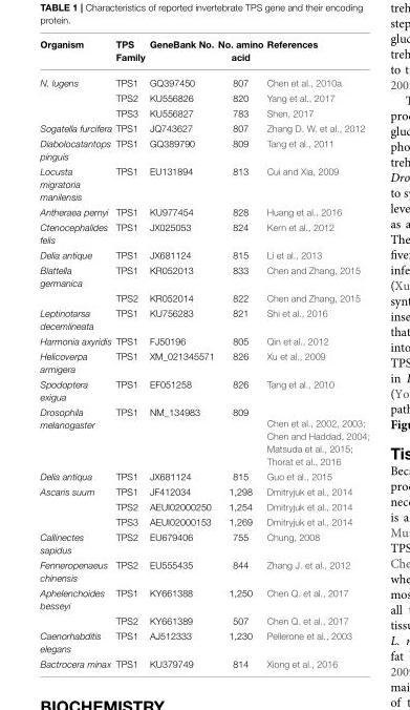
<table><thead><tr><td>Organism</td><td>TPS Family</td><td>GeneBank No.</td><td>No. amino acid</td><td>References</td></tr></thead><tbody><tr><td rowspan="3">N. lugens</td><td>TPS1</td><td>GQ397450</td><td>807</td><td>Chen et al., 2010a</td></tr><tr><td>TPS2</td><td>KU556826</td><td>820</td><td>Yang et al., 2017</td></tr><tr><td>TPS3</td><td>KU556827</td><td>783</td><td>Shen, 2017</td></tr><tr><td>Sogatella furcifera</td><td>TPS1</td><td>JQ743627</td><td>807</td><td>Zhang D. W. et al., 2012</td></tr><tr><td>Diabolocatantops pinguis</td><td>TPS1</td><td>GQ389790</td><td>809</td><td>Tang et al., 2011</td></tr><tr><td>Locusta migratoria manilensis</td><td>TPS1</td><td>EU131894</td><td>813</td><td>Cui and Xia, 2009</td></tr><tr><td>Antheraea pernyi</td><td>TPS1</td><td>KU977454</td><td>828</td><td>Huang et al., 2016</td></tr><tr><td>Ctenocephalides felis</td><td>TPS1</td><td>JX025053</td><td>824</td><td>Kern et al., 2012</td></tr><tr><td>Delia antique</td><td>TPS1</td><td>JX681124</td><td>815</td><td>Li et al., 2013</td></tr><tr><td rowspan="2">Blattella germanica</td><td>TPS1</td><td>KR052013</td><td>833</td><td>Chen and Zhang, 2015</td></tr><tr><td>TPS2</td><td>KR052014</td><td>822</td><td>Chen and Zhang, 2015</td></tr><tr><td>Leptinotarsa decemlineata</td><td>TPS1</td><td>KU756283</td><td>821</td><td>Shi et al., 2016</td></tr><tr><td>Harmonia axyridis</td><td>TPS1</td><td>FJ50196</td><td>805</td><td>Qin et al., 2012</td></tr><tr><td>Helicoverpa armigera</td><td>TPS1</td><td>XM_021345571</td><td>826</td><td>Xu et al., 2009</td></tr><tr><td>Spodoptera exigua</td><td>TPS1</td><td>EF051258</td><td>826</td><td>Tang et al., 2010</td></tr><tr><td>Drosophila melanogaster</td><td>TPS1</td><td>NM_134983</td><td>809</td><td>Chen et al., 2002, 2003; Chen and Haddad, 2004; Matsuda et al., 2015; Thorat et al., 2016</td></tr><tr><td>Delia antiqua</td><td>TPS1</td><td>JX681124</td><td>815</td><td>Guo et al., 2015</td></tr><tr><td rowspan="3">Ascaris suum</td><td>TPS1</td><td>JF412034</td><td>1,298</td><td>Dmitryjuk et al., 2014</td></tr><tr><td>TPS2</td><td>AEUI02000250</td><td>1,254</td><td>Dmitryjuk et al., 2014</td></tr><tr><td>TPS3</td><td>AEUI02000153</td><td>1,269</td><td>Dmitryjuk et al., 2014</td></tr><tr><td>Callinectes sapidus</td><td>TPS2</td><td>EU679406</td><td>755</td><td>Chung, 2008</td></tr><tr><td>Fenneropenaeus chinensis</td><td>TPS2</td><td>EU555435</td><td>844</td><td>Zhang J. et al., 2012</td></tr><tr><td rowspan="2">Aphelenchoides besseyi</td><td>TPS1</td><td>KY661388</td><td>1,250</td><td>Chen Q. et al., 2017</td></tr><tr><td>TPS2</td><td>KY661389</td><td>507</td><td>Chen Q. et al., 2017</td></tr><tr><td>Caenorhabditis elegans</td><td>TPS1</td><td>AJ512333</td><td>1,230</td><td>Pellerone et al., 2003</td></tr><tr><td>Bactrocera minax</td><td>TPS1</td><td>KU379749</td><td>814</td><td>Xiong et al., 2016</td></tr></tbody></table>